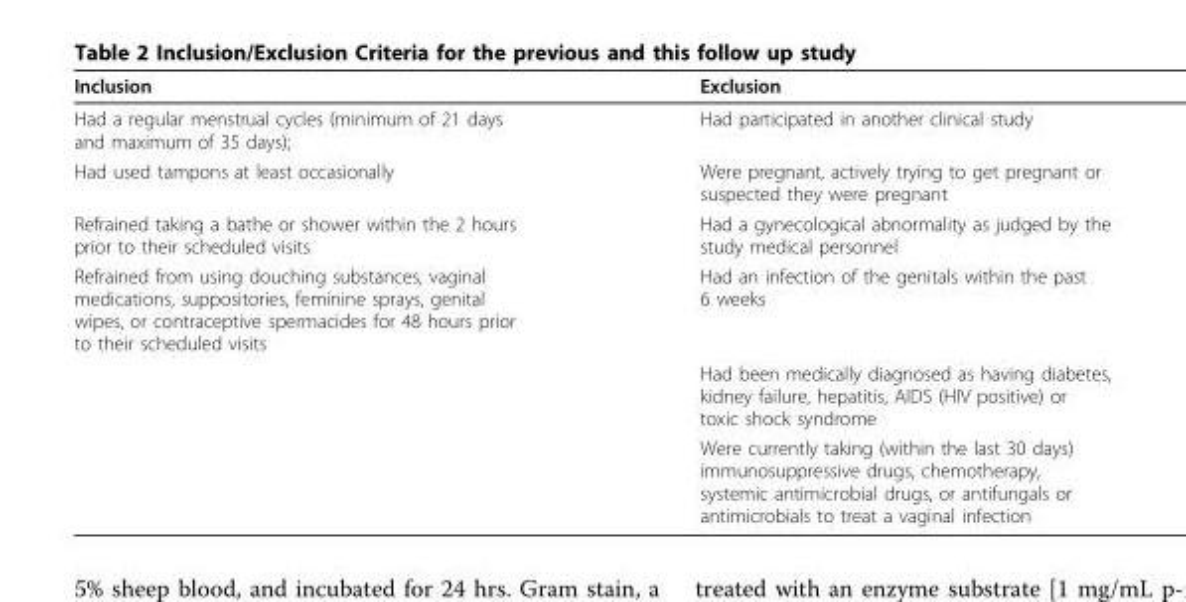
<table><thead><tr><td>Inclusion</td><td>Exclusion</td></tr></thead><tbody><tr><td>Had a regular menstrual cycles (minimum of 21 days and maximum of 35 days);</td><td>Had participated in another clinical study</td></tr><tr><td>Had used tampons at least occasionally</td><td>Were pregnant, actively trying to get pregnant or suspected they were pregnant</td></tr><tr><td>Refrained taking a bathe or shower within the 2 hours prior to their scheduled visits</td><td>Had a gynecological abnormality as judged by the study medical personnel</td></tr><tr><td rowspan="3">Refrained from using douching substances, vaginal medications, suppositories, feminine sprays, genital wipes, or contraceptive spermacides for 48 hours prior to their scheduled visits</td><td>Had an infection of the genitals within the past 6 weeks</td></tr><tr><td>Had been medically diagnosed as having diabetes, kidney failure, hepatitis, AIDS (HIV positive) or toxic shock syndrome</td></tr><tr><td>Were currently taking (within the last 30 days) immunosuppressive drugs, chemotherapy, systemic antimicrobial drugs, or antifungals or antimicrobials to treat a vaginal infection</td></tr></tbody></table>